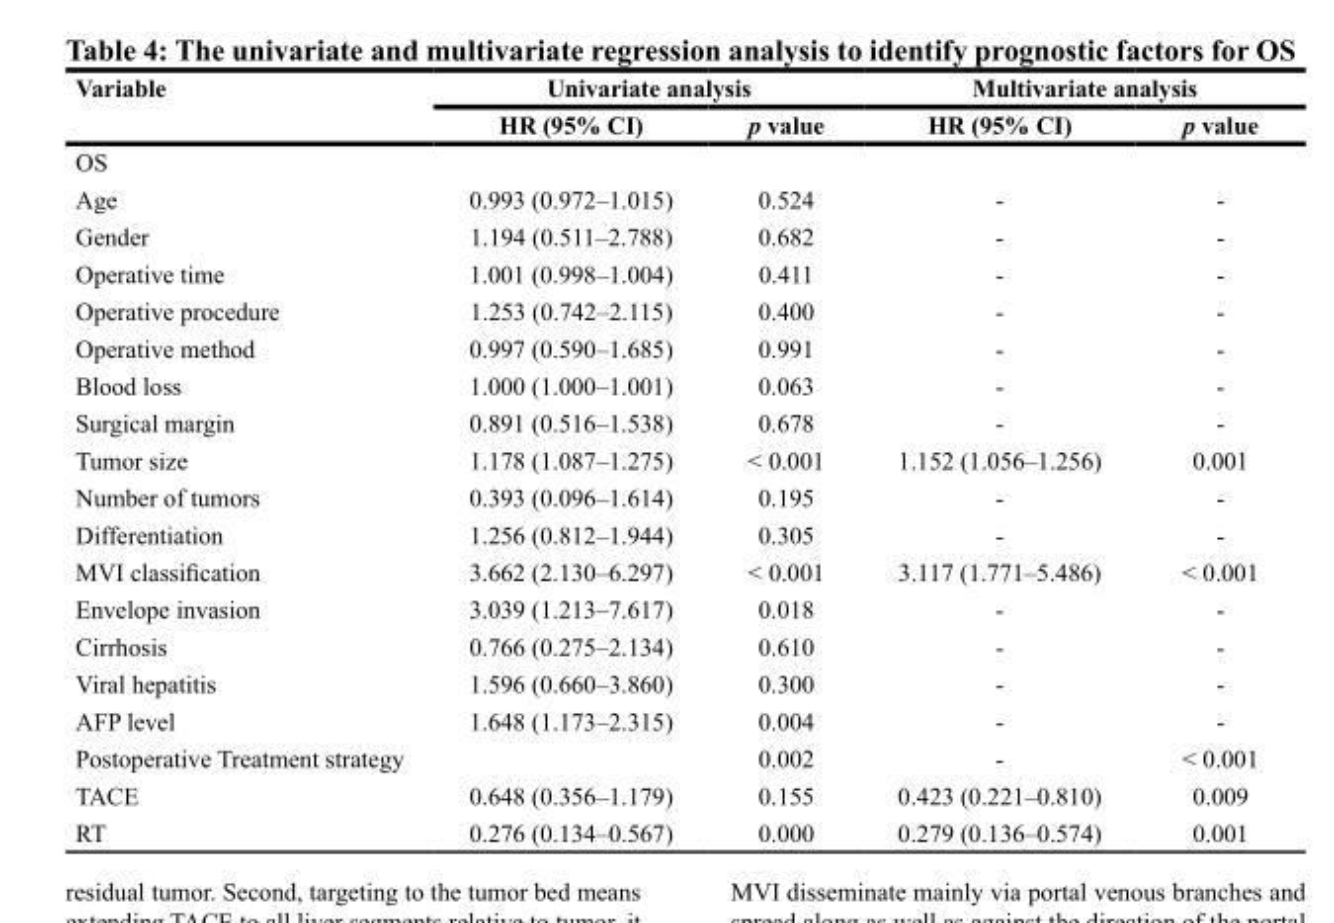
<table><thead><tr><td rowspan="2">Variable</td><td colspan="2">Univariate analysis</td><td colspan="2">Multivariate analysis</td></tr><tr><td>HR (95% CI)</td><td>p value</td><td>HR (95% CI)</td><td>p value</td></tr></thead><tbody><tr><td colspan="5">OS</td></tr><tr><td>Age</td><td>0.993 (0.972–1.015)</td><td>0.524</td><td>-</td><td>-</td></tr><tr><td>Gender</td><td>1.194 (0.511–2.788)</td><td>0.682</td><td>-</td><td>-</td></tr><tr><td>Operative time</td><td>1.001 (0.998–1.004)</td><td>0.411</td><td>-</td><td>-</td></tr><tr><td>Operative procedure</td><td>1.253 (0.742–2.115)</td><td>0.400</td><td>-</td><td>-</td></tr><tr><td>Operative method</td><td>0.997 (0.590–1.685)</td><td>0.991</td><td>-</td><td>-</td></tr><tr><td>Blood loss</td><td>1.000 (1.000–1.001)</td><td>0.063</td><td>-</td><td>-</td></tr><tr><td>Surgical margin</td><td>0.891 (0.516–1.538)</td><td>0.678</td><td>-</td><td>-</td></tr><tr><td>Tumor size</td><td>1.178 (1.087–1.275)</td><td>&lt; 0.001</td><td>1.152 (1.056–1.256)</td><td>0.001</td></tr><tr><td>Number of tumors</td><td>0.393 (0.096–1.614)</td><td>0.195</td><td>-</td><td>-</td></tr><tr><td>Differentiation</td><td>1.256 (0.812–1.944)</td><td>0.305</td><td>-</td><td>-</td></tr><tr><td>MVI classification</td><td>3.662 (2.130–6.297)</td><td>&lt; 0.001</td><td>3.117 (1.771–5.486)</td><td>&lt; 0.001</td></tr><tr><td>Envelope invasion</td><td>3.039 (1.213–7.617)</td><td>0.018</td><td>-</td><td>-</td></tr><tr><td>Cirrhosis</td><td>0.766 (0.275–2.134)</td><td>0.610</td><td>-</td><td>-</td></tr><tr><td>Viral hepatitis</td><td>1.596 (0.660–3.860)</td><td>0.300</td><td>-</td><td>-</td></tr><tr><td>AFP level</td><td>1.648 (1.173–2.315)</td><td>0.004</td><td>-</td><td>-</td></tr><tr><td>Postoperative Treatment strategy</td><td></td><td>0.002</td><td>-</td><td>&lt; 0.001</td></tr><tr><td>TACE</td><td>0.648 (0.356–1.179)</td><td>0.155</td><td>0.423 (0.221–0.810)</td><td>0.009</td></tr><tr><td>RT</td><td>0.276 (0.134–0.567)</td><td>0.000</td><td>0.279 (0.136–0.574)</td><td>0.001</td></tr></tbody></table>